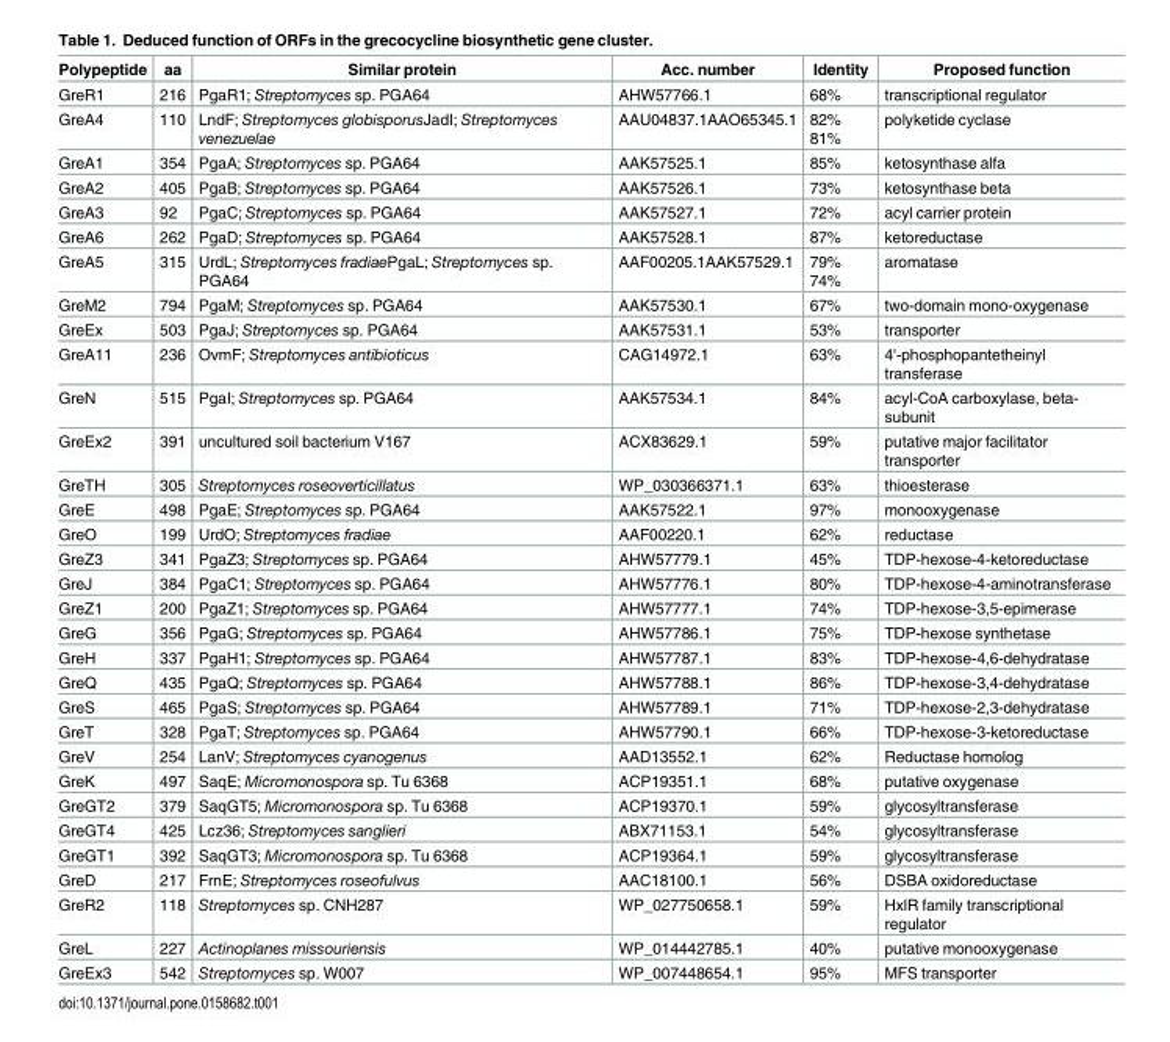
<table><thead><tr><td>Polypeptide</td><td>aa</td><td>Similar protein</td><td>Acc. number</td><td>Identity</td><td>Proposed function</td></tr></thead><tbody><tr><td>GreR1</td><td>216</td><td>PgaR1; Streptomyces sp. PGA64</td><td>AHW57766.1</td><td>68%</td><td>transcriptional regulator</td></tr><tr><td>GreA4</td><td>110</td><td>LndF; Streptomyces globisporusJadI; Streptomyces venezuelae</td><td>AAU04837.1AAO65345.1</td><td>82% 81%</td><td>polyketide cyclase</td></tr><tr><td>GreA1</td><td>354</td><td>PgaA; Streptomyces sp. PGA64</td><td>AAK57525.1</td><td>85%</td><td>ketosynthase alfa</td></tr><tr><td>GreA2</td><td>405</td><td>PgaB; Streptomyces sp. PGA64</td><td>AAK57526.1</td><td>73%</td><td>ketosynthase beta</td></tr><tr><td>GreA3</td><td>92</td><td>PgaC; Streptomyces sp. PGA64</td><td>AAK57527.1</td><td>72%</td><td>acyl carrier protein</td></tr><tr><td>GreA6</td><td>262</td><td>PgaD; Streptomyces sp. PGA64</td><td>AAK57528.1</td><td>87%</td><td>ketoreductase</td></tr><tr><td>GreA5</td><td>315</td><td>UrdL; Streptomyces fradiaePgaL; Streptomyces sp. PGA64</td><td>AAF00205.1AAK57529.1</td><td>79% 74%</td><td>aromatase</td></tr><tr><td>GreM2</td><td>794</td><td>PgaM; Streptomyces sp. PGA64</td><td>AAK57530.1</td><td>67%</td><td>two-domain mono-oxygenase</td></tr><tr><td>GreEx</td><td>503</td><td>PgaJ; Streptomyces sp. PGA64</td><td>AAK57531.1</td><td>53%</td><td>transporter</td></tr><tr><td>GreA11</td><td>236</td><td>OvmF; Streptomyces antibioticus</td><td>CAG14972.1</td><td>63%</td><td>4&#x27;-phosphopantetheinyl transferase</td></tr><tr><td>GreN</td><td>515</td><td>PgaI; Streptomyces sp. PGA64</td><td>AAK57534.1</td><td>84%</td><td>acyl-CoA carboxylase, beta- subunit</td></tr><tr><td>GreEx2</td><td>391</td><td>uncultured soil bacterium V167</td><td>ACX83629.1</td><td>59%</td><td>putative major facilitator transporter</td></tr><tr><td>GreTH</td><td>305</td><td>Streptomyces roseoverticillatus</td><td>WP_030366371.1</td><td>63%</td><td>thioesterase</td></tr><tr><td>GreE</td><td>498</td><td>PgaE; Streptomyces sp. PGA64</td><td>AAK57522.1</td><td>97%</td><td>monooxygenase</td></tr><tr><td>GreO</td><td>199</td><td>UrdO; Streptomyces fradiae</td><td>AAF00220.1</td><td>62%</td><td>reductase</td></tr><tr><td>GreZ3</td><td>341</td><td>PgaZ3; Streptomyces sp. PGA64</td><td>AHW57779.1</td><td>45%</td><td>TDP-hexose-4-ketoreductase</td></tr><tr><td>GreJ</td><td>384</td><td>PgaC1; Streptomyces sp. PGA64</td><td>AHW57776.1</td><td>80%</td><td>TDP-hexose-4-aminotransferase</td></tr><tr><td>GreZ1</td><td>200</td><td>PgaZ1; Streptomyces sp. PGA64</td><td>AHW57777.1</td><td>74%</td><td>TDP-hexose-3,5-epimerase</td></tr><tr><td>GreG</td><td>356</td><td>PgaG; Streptomyces sp. PGA64</td><td>AHW57786.1</td><td>75%</td><td>TDP-hexose synthetase</td></tr><tr><td>GreH</td><td>337</td><td>PgaH1; Streptomyces sp. PGA64</td><td>AHW57787.1</td><td>83%</td><td>TDP-hexose-4,6-dehydratase</td></tr><tr><td>GreQ</td><td>435</td><td>PgaQ; Streptomyces sp. PGA64</td><td>AHW57788.1</td><td>86%</td><td>TDP-hexose-3,4-dehydratase</td></tr><tr><td>GreS</td><td>465</td><td>PgaS; Streptomyces sp. PGA64</td><td>AHW57789.1</td><td>71%</td><td>TDP-hexose-2,3-dehydratase</td></tr><tr><td>GreT</td><td>328</td><td>PgaT; Streptomyces sp. PGA64</td><td>AHW57790.1</td><td>66%</td><td>TDP-hexose-3-ketoreductase</td></tr><tr><td>GreV</td><td>254</td><td>LanV; Streptomyces cyanogenus</td><td>AAD13552.1</td><td>62%</td><td>Reductase homolog</td></tr><tr><td>GreK</td><td>497</td><td>SaqE; Micromonospora sp. Tu 6368</td><td>ACP19351.1</td><td>68%</td><td>putative oxygenase</td></tr><tr><td>GreGT2</td><td>379</td><td>SaqGT5; Micromonospora sp. Tu 6368</td><td>ACP19370.1</td><td>59%</td><td>glycosyltransferase</td></tr><tr><td>GreGT4</td><td>425</td><td>Lcz36; Streptomyces sanglieri</td><td>ABX71153.1</td><td>54%</td><td>glycosyltransferase</td></tr><tr><td>GreGT1</td><td>392</td><td>SaqGT3; Micromonospora sp. Tu 6368</td><td>ACP19364.1</td><td>59%</td><td>glycosyltransferase</td></tr><tr><td>GreD</td><td>217</td><td>FrnE; Streptomyces roseofulvus</td><td>AAC18100.1</td><td>56%</td><td>DSBA oxidoreductase</td></tr><tr><td>GreR2</td><td>118</td><td>Streptomyces sp. CNH287</td><td>WP_027750658.1</td><td>59%</td><td>HxlR family transcriptional regulator</td></tr><tr><td>GreL</td><td>227</td><td>Actinoplanes missouriensis</td><td>WP_014442785.1</td><td>40%</td><td>putative monooxygenase</td></tr><tr><td>GreEx3</td><td>542</td><td>Streptomyces sp. W007</td><td>WP_007448654.1</td><td>95%</td><td>MFS transporter</td></tr></tbody></table>